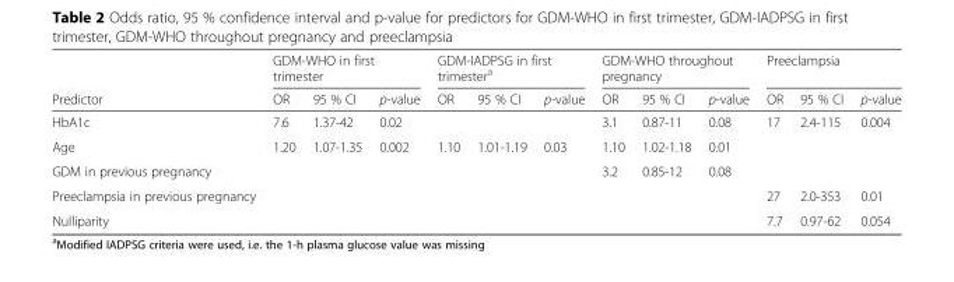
<table><thead><tr><td rowspan="2">Predictor</td><td colspan="3">GDM-WHO in first trimester</td><td colspan="3">GDM-IADPSG in first trimester<sup>a</sup></td><td colspan="3">GDM-WHO throughout pregnancy</td><td colspan="3">Preeclampsia</td></tr><tr><td>OR</td><td>95 % CI</td><td>p-value</td><td>OR</td><td>95 % CI</td><td>p-value</td><td>OR</td><td>95 % CI</td><td>p-value</td><td>OR</td><td>95 % CI</td><td>p-value</td></tr></thead><tbody><tr><td>HbA1c</td><td>7.6</td><td>1.37-42</td><td>0.02</td><td></td><td></td><td></td><td>3.1</td><td>0.87-11</td><td>0.08</td><td>17</td><td>2.4-115</td><td>0.004</td></tr><tr><td>Age</td><td>1.20</td><td>1.07-1.35</td><td>0.002</td><td>1.10</td><td>1.01-1.19</td><td>0.03</td><td>1.10</td><td>1.02-1.18</td><td>0.01</td><td></td><td></td><td></td></tr><tr><td>GDM in previous pregnancy</td><td></td><td></td><td></td><td></td><td></td><td></td><td>3.2</td><td>0.85-12</td><td>0.08</td><td></td><td></td><td></td></tr><tr><td>Preeclampsia in previous pregnancy</td><td></td><td></td><td></td><td></td><td></td><td></td><td></td><td></td><td></td><td>27</td><td>2.0-353</td><td>0.01</td></tr><tr><td>Nulliparity</td><td></td><td></td><td></td><td></td><td></td><td></td><td></td><td></td><td></td><td>7.7</td><td>0.97-62</td><td>0.054</td></tr></tbody></table>